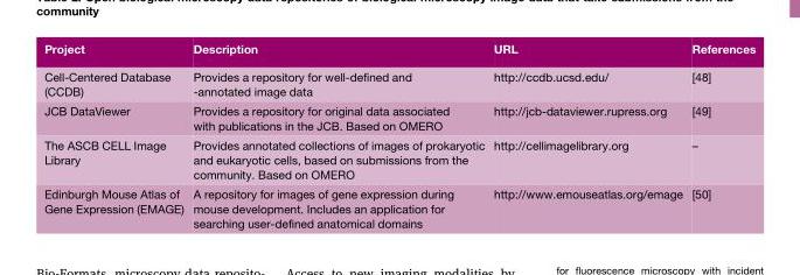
<table><thead><tr><td>Project</td><td>Description</td><td>URL</td><td>References</td></tr></thead><tbody><tr><td>Cell-Centered Database (CCDB)</td><td>Provides a repository for well-defined and -annotated image data</td><td>http://ccdb.ucsd.edu/</td><td>[48]</td></tr><tr><td>JCB DataViewer</td><td>Provides a repository for original data associated with publications in the JCB. Based on OMERO</td><td>http://jcb-dataviewer.rupress.org</td><td>[49]</td></tr><tr><td>The ASCB CELL Image Library</td><td>Provides annotated collections of images of prokaryotic and eukaryotic cells, based on submissions from the community. Based on OMERO</td><td>http://cellimagelibrary.org</td><td>–</td></tr><tr><td>Edinburgh Mouse Atlas of Gene Expression (EMAGE)</td><td>A repository for images of gene expression during mouse development. Includes an application for searching user-defined anatomical domains</td><td>http://www.emouseatlas.org/emage</td><td>[50]</td></tr></tbody></table>